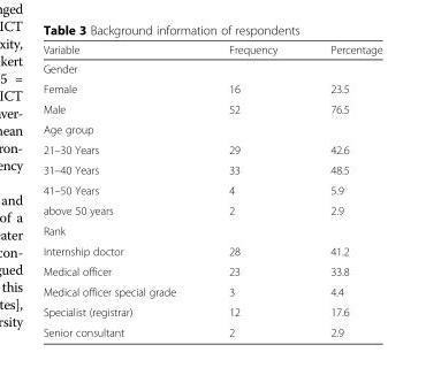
<table><thead><tr><td>Variable</td><td>Frequency</td><td>Percentage</td></tr></thead><tbody><tr><td colspan="3">Gender</td></tr><tr><td>Female</td><td>16</td><td>23.5</td></tr><tr><td>Male</td><td>52</td><td>76.5</td></tr><tr><td colspan="3">Age group</td></tr><tr><td>21–30 Years</td><td>29</td><td>42.6</td></tr><tr><td>31–40 Years</td><td>33</td><td>48.5</td></tr><tr><td>41–50 Years</td><td>4</td><td>5.9</td></tr><tr><td>above 50 years</td><td>2</td><td>2.9</td></tr><tr><td colspan="3">Rank</td></tr><tr><td>Internship doctor</td><td>28</td><td>41.2</td></tr><tr><td>Medical officer</td><td>23</td><td>33.8</td></tr><tr><td>Medical officer special grade</td><td>3</td><td>4.4</td></tr><tr><td>Specialist (registrar)</td><td>12</td><td>17.6</td></tr><tr><td>Senior consultant</td><td>2</td><td>2.9</td></tr></tbody></table>